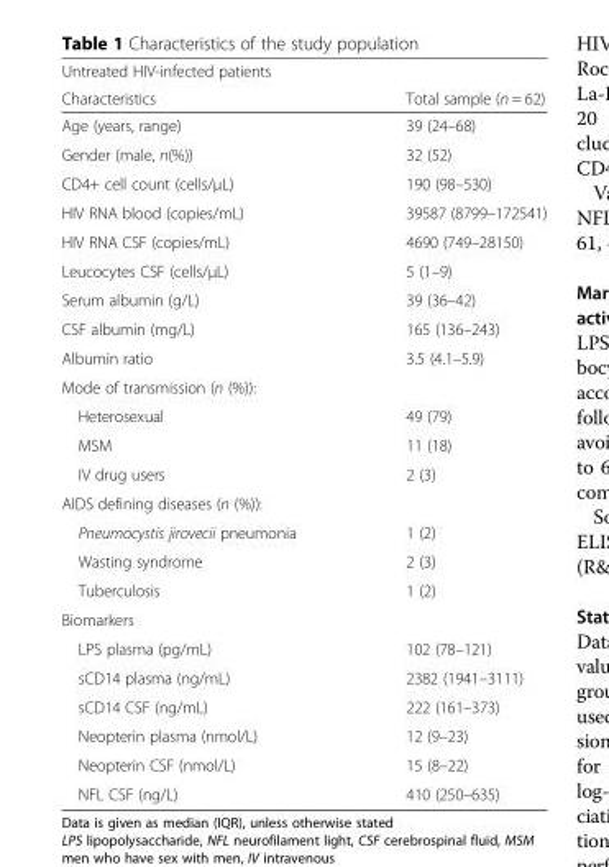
<table><thead><tr><td rowspan="2">Untreated HIV-infected patients Characteristics</td><td rowspan="2">Total sample (n = 62)</td></tr><tr></tr></thead><tbody><tr><td>Age (years, range)</td><td>39 (24–68)</td></tr><tr><td>Gender (male, n(%))</td><td>32 (52)</td></tr><tr><td>CD4+ cell count (cells/μL)</td><td>190 (98–530)</td></tr><tr><td>HIV RNA blood (copies/mL)</td><td>39587 (8799–172541)</td></tr><tr><td>HIV RNA CSF (copies/mL)</td><td>4690 (749–28150)</td></tr><tr><td>Leucocytes CSF (cells/μL)</td><td>5 (1–9)</td></tr><tr><td>Serum albumin (g/L)</td><td>39 (36–42)</td></tr><tr><td>CSF albumin (mg/L)</td><td>165 (136–243)</td></tr><tr><td>Albumin ratio</td><td>3.5 (4.1–5.9)</td></tr><tr><td colspan="2">Mode of transmission (n (%)):</td></tr><tr><td>Heterosexual</td><td>49 (79)</td></tr><tr><td>MSM</td><td>11 (18)</td></tr><tr><td>IV drug users</td><td>2 (3)</td></tr><tr><td colspan="2">AIDS defining diseases (n (%)):</td></tr><tr><td>Pneumocystis jirovecii pneumonia</td><td>1 (2)</td></tr><tr><td>Wasting syndrome</td><td>2 (3)</td></tr><tr><td>Tuberculosis</td><td>1 (2)</td></tr><tr><td colspan="2">Biomarkers</td></tr><tr><td>LPS plasma (pg/mL)</td><td>102 (78–121)</td></tr><tr><td>sCD14 plasma (ng/mL)</td><td>2382 (1941–3111)</td></tr><tr><td>sCD14 CSF (ng/mL)</td><td>222 (161–373)</td></tr><tr><td>Neopterin plasma (nmol/L)</td><td>12 (9–23)</td></tr><tr><td>Neopterin CSF (nmol/L)</td><td>15 (8–22)</td></tr><tr><td>NFL CSF (ng/L)</td><td>410 (250–635)</td></tr></tbody></table>